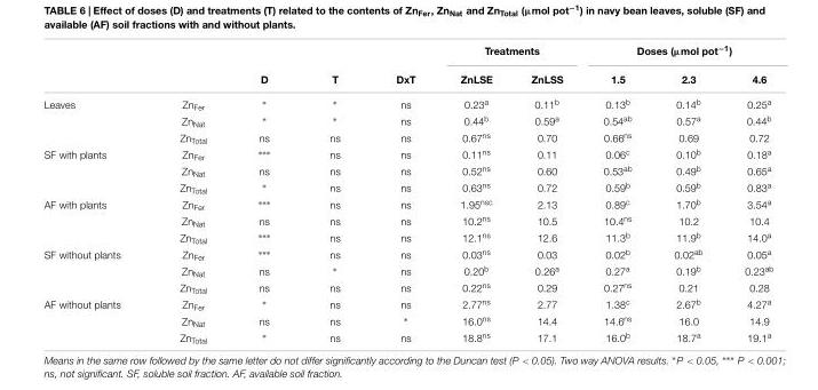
<table><thead><tr><td rowspan="2"></td><td rowspan="2"></td><td rowspan="2">D</td><td rowspan="2">T</td><td rowspan="2">DxT</td><td colspan="2">Treatments</td><td colspan="3">Doses (µmol pot<sup>−1</sup>)</td></tr><tr><td>ZnLSE</td><td>ZnLSS</td><td>1.5</td><td>2.3</td><td>4.6</td></tr></thead><tbody><tr><td rowspan="3">Leaves</td><td>Zn<sub>Fer</sub></td><td>∗</td><td>∗</td><td>ns</td><td>0.23<sup>a</sup></td><td>0.11<sup>b</sup></td><td>0.13<sup>b</sup></td><td>0.14<sup>b</sup></td><td>0.25<sup>a</sup></td></tr><tr><td>Zn<sub>Nat</sub></td><td>∗</td><td>∗</td><td>ns</td><td>0.44<sup>b</sup></td><td>0.59<sup>a</sup></td><td>0.54<sup>ab</sup></td><td>0.57<sup>a</sup></td><td>0.44<sup>b</sup></td></tr><tr><td>Zn<sub>Total</sub></td><td>ns</td><td>ns</td><td>ns</td><td>0.67<sup>ns</sup></td><td>0.70</td><td>0.66<sup>ns</sup></td><td>0.69</td><td>0.72</td></tr><tr><td rowspan="3">SF with plants</td><td>Zn<sub>Fer</sub></td><td>∗∗∗</td><td>ns</td><td>ns</td><td>0.11<sup>ns</sup></td><td>0.11</td><td>0.06<sup>c</sup></td><td>0.10<sup>b</sup></td><td>0.18<sup>a</sup></td></tr><tr><td>Zn<sub>Nat</sub></td><td>ns</td><td>ns</td><td>ns</td><td>0.52<sup>ns</sup></td><td>0.60</td><td>0.53<sup>ab</sup></td><td>0.49<sup>b</sup></td><td>0.65<sup>a</sup></td></tr><tr><td>Zn<sub>Total</sub></td><td>∗</td><td>ns</td><td>ns</td><td>0.63<sup>ns</sup></td><td>0.72</td><td>0.59<sup>b</sup></td><td>0.59<sup>b</sup></td><td>0.83<sup>a</sup></td></tr><tr><td rowspan="3">AF with plants</td><td>Zn<sub>Fer</sub></td><td>∗∗∗</td><td>ns</td><td>ns</td><td>1.95<sup>nsc</sup></td><td>2.13</td><td>0.89<sup>c</sup></td><td>1.70<sup>b</sup></td><td>3.54<sup>a</sup></td></tr><tr><td>Zn<sub>Nat</sub></td><td>ns</td><td>ns</td><td>ns</td><td>10.2<sup>ns</sup></td><td>10.5</td><td>10.4<sup>ns</sup></td><td>10.2</td><td>10.4</td></tr><tr><td>Zn<sub>Total</sub></td><td>∗∗∗</td><td>ns</td><td>ns</td><td>12.1<sup>ns</sup></td><td>12.6</td><td>11.3<sup>b</sup></td><td>11.9<sup>b</sup></td><td>14.0<sup>a</sup></td></tr><tr><td rowspan="3">SF without plants</td><td>Zn<sub>Fer</sub></td><td>∗∗∗</td><td>ns</td><td>ns</td><td>0.03<sup>ns</sup></td><td>0.03</td><td>0.02<sup>b</sup></td><td>0.02<sup>ab</sup></td><td>0.05<sup>a</sup></td></tr><tr><td>Zn<sub>Nat</sub></td><td>ns</td><td>∗</td><td>ns</td><td>0.20<sup>b</sup></td><td>0.26<sup>a</sup></td><td>0.27<sup>a</sup></td><td>0.19<sup>b</sup></td><td>0.23<sup>ab</sup></td></tr><tr><td>Zn<sub>Total</sub></td><td>ns</td><td>ns</td><td>ns</td><td>0.22<sup>ns</sup></td><td>0.29</td><td>0.27<sup>ns</sup></td><td>0.21</td><td>0.28</td></tr><tr><td rowspan="3">AF without plants</td><td>Zn<sub>Fer</sub></td><td>∗</td><td>ns</td><td>ns</td><td>2.77<sup>ns</sup></td><td>2.77</td><td>1.38<sup>c</sup></td><td>2.67<sup>b</sup></td><td>4.27<sup>a</sup></td></tr><tr><td>Zn<sub>Nat</sub></td><td>ns</td><td>ns</td><td>∗</td><td>16.0<sup>ns</sup></td><td>14.4</td><td>14.6<sup>ns</sup></td><td>16.0</td><td>14.9</td></tr><tr><td>Zn<sub>Total</sub></td><td>∗</td><td>ns</td><td>ns</td><td>18.8<sup>ns</sup></td><td>17.1</td><td>16.0<sup>b</sup></td><td>18.7<sup>a</sup></td><td>19.1<sup>a</sup></td></tr></tbody></table>